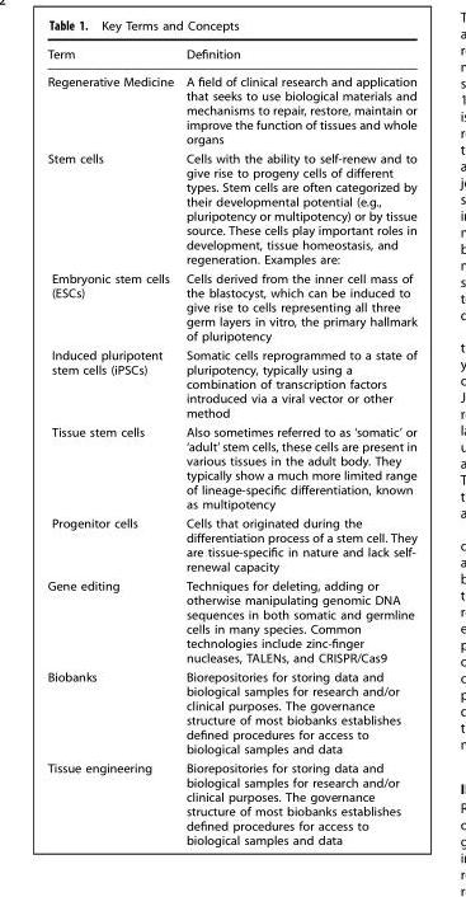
<table><thead><tr><td>Term</td><td>Definition</td></tr></thead><tbody><tr><td>Regenerative Medicine</td><td>A field of clinical research and application that seeks to use biological materials and mechanisms to repair, restore, maintain or improve the function of tissues and whole organs</td></tr><tr><td>Stem cells</td><td>Cells with the ability to self-renew and to give rise to progeny cells of different types. Stem cells are often categorized by their developmental potential (e.g., pluripotency or multipotency) or by tissue source. These cells play important roles in development, tissue homeostasis, and regeneration. Examples are:</td></tr><tr><td>Embryonic stem cells (ESCs)</td><td>Cells derived from the inner cell mass of the blastocyst, which can be induced to give rise to cells representing all three germ layers in vitro, the primary hallmark of pluripotency</td></tr><tr><td>Induced pluripotent stem cells (iPSCs)</td><td>Somatic cells reprogrammed to a state of pluripotency, typically using a combination of transcription factors introduced via a viral vector or other method</td></tr><tr><td>Tissue stem cells</td><td>Also sometimes referred to as ‘somatic’ or ‘adult’ stem cells, these cells are present in various tissues in the adult body. They typically show a much more limited range of lineage-specific differentiation, known as multipotency</td></tr><tr><td>Progenitor cells</td><td>Cells that originated during the differentiation process of a stem cell. They are tissue-specific in nature and lack self- renewal capacity</td></tr><tr><td>Gene editing</td><td>Techniques for deleting, adding or otherwise manipulating genomic DNA sequences in both somatic and germline cells in many species. Common technologies include zinc-finger nucleases, TALENs, and CRISPR/Cas9</td></tr><tr><td>Biobanks</td><td>Biorepositories for storing data and biological samples for research and/or clinical purposes. The governance structure of most biobanks establishes defined procedures for access to biological samples and data</td></tr><tr><td>Tissue engineering</td><td>Biorepositories for storing data and biological samples for research and/or clinical purposes. The governance structure of most biobanks establishes defined procedures for access to biological samples and data</td></tr></tbody></table>